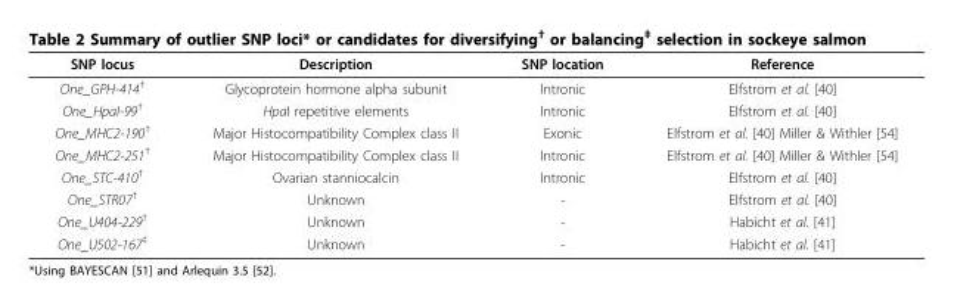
<table><thead><tr><td>SNP locus</td><td>Description</td><td>SNP location</td><td>Reference</td></tr></thead><tbody><tr><td>One_GPH-414<sup>†</sup></td><td>Glycoprotein hormone alpha subunit</td><td>Intronic</td><td>Elfstrom et al. [40]</td></tr><tr><td>One_HpaI-99<sup>†</sup></td><td>HpaI repetitive elements</td><td>Intronic</td><td>Elfstrom et al. [40]</td></tr><tr><td>One_MHC2-190<sup>†</sup></td><td>Major Histocompatibility Complex class II</td><td>Exonic</td><td>Elfstrom et al. [40] Miller &amp; Withler [54]</td></tr><tr><td>One_MHC2-251<sup>†</sup></td><td>Major Histocompatibility Complex class II</td><td>Intronic</td><td>Elfstrom et al. [40] Miller &amp; Withler [54]</td></tr><tr><td>One_STC-410<sup>†</sup></td><td>Ovarian stanniocalcin</td><td>Intronic</td><td>Elfstrom et al. [40]</td></tr><tr><td>One_STR07<sup>†</sup></td><td>Unknown</td><td>-</td><td>Elfstrom et al. [40]</td></tr><tr><td>One_U404-229<sup>†</sup></td><td>Unknown</td><td>-</td><td>Habicht et al. [41]</td></tr><tr><td>One_U502-167<sup>‡</sup></td><td>Unknown</td><td>-</td><td>Habicht et al. [41]</td></tr></tbody></table>